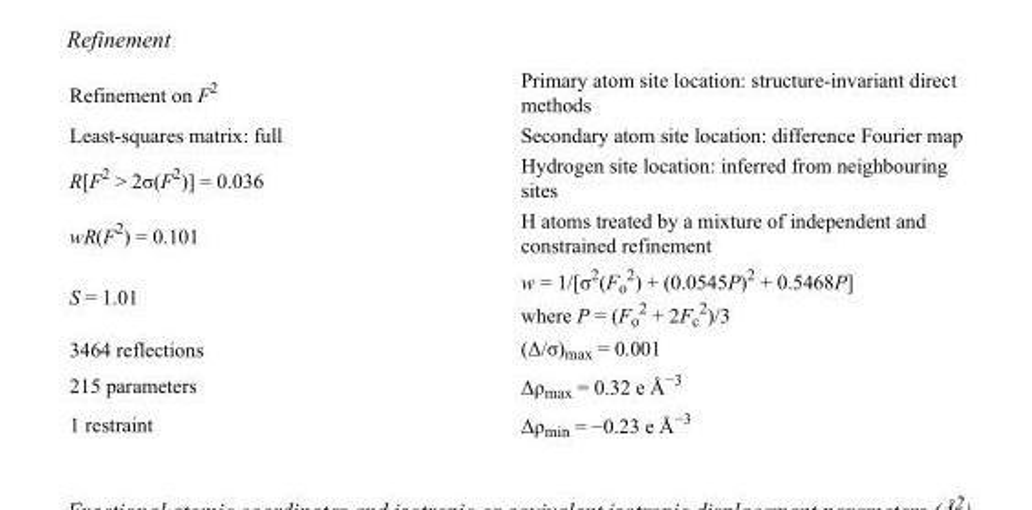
<table><tbody><tr><td>Refinement on F<sup>2</sup></td><td>Primary atom site location: structure-invariant direct methods</td></tr><tr><td>Least-squares matrix: full</td><td>Secondary atom site location: difference Fourier map</td></tr><tr><td>R[F<sup>2</sup> &gt; 2σ(F<sup>2</sup>)] = 0.036</td><td>Hydrogen site location: inferred from neighbouring sites</td></tr><tr><td>wR(F<sup>2</sup>) = 0.101</td><td>H atoms treated by a mixture of independent and constrained refinement</td></tr><tr><td>S = 1.01</td><td>w = 1/[σ<sup>2</sup>(F<sub>o</sub> <sup>2</sup>) + (0.0545P)<sup>2</sup> + 0.5468P] where P = (F<sub>o</sub> <sup>2</sup> + 2F<sub>c</sub> <sup>2</sup>)/3</td></tr><tr><td>3464 reflections</td><td>(Δ/σ)<sub>max</sub> = 0.001</td></tr><tr><td>215 parameters</td><td>Δρ<sub>max</sub> = 0.32 e Å<sup>−3</sup></td></tr><tr><td>1 restraint</td><td>Δρ<sub>min</sub> = −0.23 e Å<sup>−3</sup></td></tr></tbody></table>